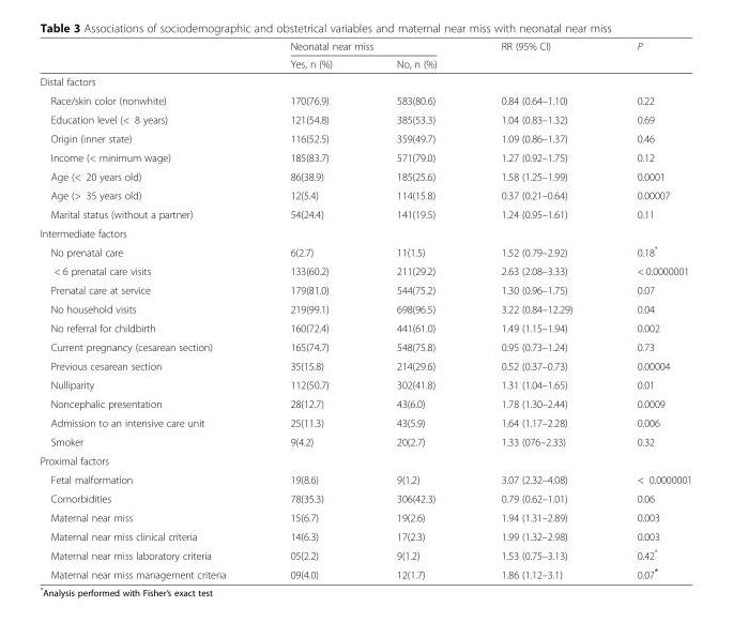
<table><thead><tr><td rowspan="2"></td><td colspan="2">Neonatal near miss</td><td rowspan="2">RR (95% CI)</td><td rowspan="2">P</td></tr><tr><td>Yes, n (%)</td><td>No, n (%)</td></tr></thead><tbody><tr><td colspan="5">Distal factors</td></tr><tr><td>Race/skin color (nonwhite)</td><td>170(76.9)</td><td>583(80.6)</td><td>0.84 (0.64–1.10)</td><td>0.22</td></tr><tr><td>Education level (&lt; 8 years)</td><td>121(54.8)</td><td>385(53.3)</td><td>1.04 (0.83–1.32)</td><td>0.69</td></tr><tr><td>Origin (inner state)</td><td>116(52.5)</td><td>359(49.7)</td><td>1.09 (0.86–1.37)</td><td>0.46</td></tr><tr><td>Income (&lt; minimum wage)</td><td>185(83.7)</td><td>571(79.0)</td><td>1.27 (0.92–1.75)</td><td>0.12</td></tr><tr><td>Age (&lt; 20 years old)</td><td>86(38.9)</td><td>185(25.6)</td><td>1.58 (1.25–1.99)</td><td>0.0001</td></tr><tr><td>Age (&gt; 35 years old)</td><td>12(5.4)</td><td>114(15.8)</td><td>0.37 (0.21–0.64)</td><td>0.00007</td></tr><tr><td>Marital status (without a partner)</td><td>54(24.4)</td><td>141(19.5)</td><td>1.24 (0.95–1.61)</td><td>0.11</td></tr><tr><td colspan="5">Intermediate factors</td></tr><tr><td>No prenatal care</td><td>6(2.7)</td><td>11(1.5)</td><td>1.52 (0.79–2.92)</td><td>0.18*</td></tr><tr><td>&lt; 6 prenatal care visits</td><td>133(60.2)</td><td>211(29.2)</td><td>2.63 (2.08–3.33)</td><td>&lt; 0.0000001</td></tr><tr><td>Prenatal care at service</td><td>179(81.0)</td><td>544(75.2)</td><td>1.30 (0.96–1.75)</td><td>0.07</td></tr><tr><td>No household visits</td><td>219(99.1)</td><td>698(96.5)</td><td>3.22 (0.84–12.29)</td><td>0.04</td></tr><tr><td>No referral for childbirth</td><td>160(72.4)</td><td>441(61.0)</td><td>1.49 (1.15–1.94)</td><td>0.002</td></tr><tr><td>Current pregnancy (cesarean section)</td><td>165(74.7)</td><td>548(75.8)</td><td>0.95 (0.73–1.24)</td><td>0.73</td></tr><tr><td>Previous cesarean section</td><td>35(15.8)</td><td>214(29.6)</td><td>0.52 (0.37–0.73)</td><td>0.00004</td></tr><tr><td>Nulliparity</td><td>112(50.7)</td><td>302(41.8)</td><td>1.31 (1.04–1.65)</td><td>0.01</td></tr><tr><td>Noncephalic presentation</td><td>28(12.7)</td><td>43(6.0)</td><td>1.78 (1.30–2.44)</td><td>0.0009</td></tr><tr><td>Admission to an intensive care unit</td><td>25(11.3)</td><td>43(5.9)</td><td>1.64 (1.17–2.28)</td><td>0.006</td></tr><tr><td>Smoker</td><td>9(4.2)</td><td>20(2.7)</td><td>1.33 (076–2.33)</td><td>0.32</td></tr><tr><td colspan="5">Proximal factors</td></tr><tr><td>Fetal malformation</td><td>19(8.6)</td><td>9(1.2)</td><td>3.07 (2.32–4.08)</td><td>&lt; 0.0000001</td></tr><tr><td>Comorbidities</td><td>78(35.3)</td><td>306(42.3)</td><td>0.79 (0.62–1.01)</td><td>0.06</td></tr><tr><td>Maternal near miss</td><td>15(6.7)</td><td>19(2.6)</td><td>1.94 (1.31–2.89)</td><td>0.003</td></tr><tr><td>Maternal near miss clinical criteria</td><td>14(6.3)</td><td>17(2.3)</td><td>1.99 (1.32–2.98)</td><td>0.003</td></tr><tr><td>Maternal near miss laboratory criteria</td><td>05(2.2)</td><td>9(1.2)</td><td>1.53 (0.75–3.13)</td><td>0.42*</td></tr><tr><td>Maternal near miss management criteria</td><td>09(4.0)</td><td>12(1.7)</td><td>1.86 (1.12–3.1)</td><td>0.07*</td></tr></tbody></table>